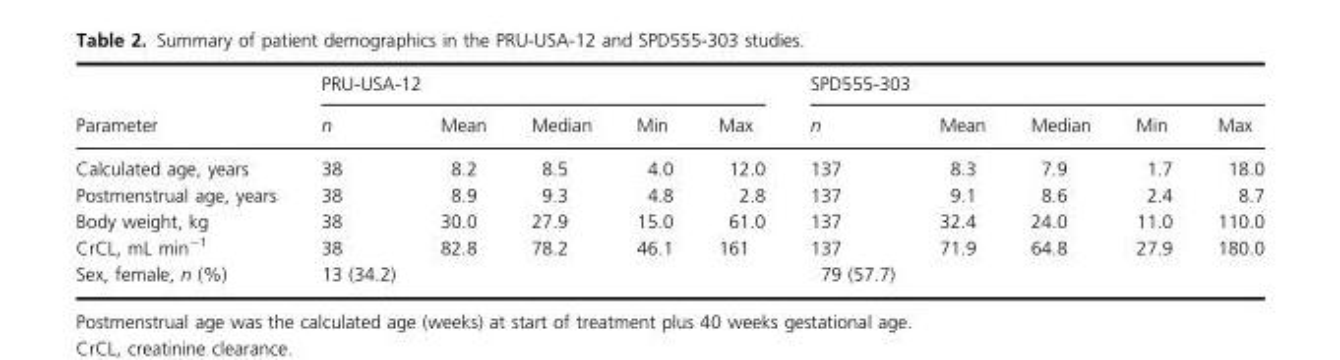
<table><thead><tr><td rowspan="2">Parameter</td><td colspan="5">PRU-USA-12</td><td colspan="5">SPD555-303</td></tr><tr><td>n</td><td>Mean</td><td>Median</td><td>Min</td><td>Max</td><td>n</td><td>Mean</td><td>Median</td><td>Min</td><td>Max</td></tr></thead><tbody><tr><td>Calculated age, years</td><td>38</td><td>8.2</td><td>8.5</td><td>4.0</td><td>12.0</td><td>137</td><td>8.3</td><td>7.9</td><td>1.7</td><td>18.0</td></tr><tr><td>Postmenstrual age, years</td><td>38</td><td>8.9</td><td>9.3</td><td>4.8</td><td>2.8</td><td>137</td><td>9.1</td><td>8.6</td><td>2.4</td><td>8.7</td></tr><tr><td>Body weight, kg</td><td>38</td><td>30.0</td><td>27.9</td><td>15.0</td><td>61.0</td><td>137</td><td>32.4</td><td>24.0</td><td>11.0</td><td>110.0</td></tr><tr><td>CrCL, mL min<sup>−1</sup></td><td>38</td><td>82.8</td><td>78.2</td><td>46.1</td><td>161</td><td>137</td><td>71.9</td><td>64.8</td><td>27.9</td><td>180.0</td></tr><tr><td>Sex, female, n (%)</td><td>13 (34.2)</td><td></td><td></td><td></td><td></td><td>79 (57.7)</td><td></td><td></td><td></td><td></td></tr></tbody></table>